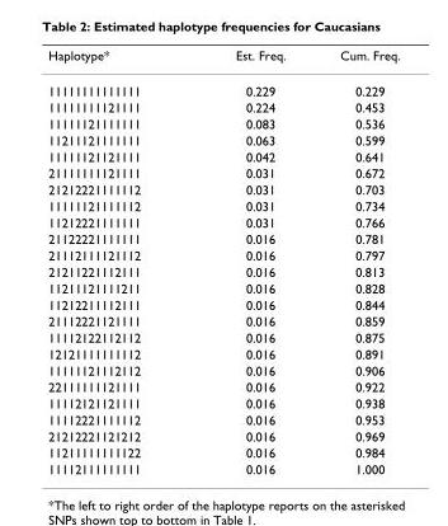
<table><thead><tr><td>Haplotype*</td><td>Est. Freq.</td><td>Cum. Freq.</td></tr></thead><tbody><tr><td>11111111111111</td><td>0.229</td><td>0.229</td></tr><tr><td>11111111121111</td><td>0.224</td><td>0.453</td></tr><tr><td>11111121111111</td><td>0.083</td><td>0.536</td></tr><tr><td>11211121111111</td><td>0.063</td><td>0.599</td></tr><tr><td>11111121121111</td><td>0.042</td><td>0.641</td></tr><tr><td>21111111121111</td><td>0.031</td><td>0.672</td></tr><tr><td>21212221111112</td><td>0.031</td><td>0.703</td></tr><tr><td>11111121111112</td><td>0.031</td><td>0.734</td></tr><tr><td>11212221111111</td><td>0.031</td><td>0.766</td></tr><tr><td>21122221111111</td><td>0.016</td><td>0.781</td></tr><tr><td>21112111121112</td><td>0.016</td><td>0.797</td></tr><tr><td>21211221112111</td><td>0.016</td><td>0.813</td></tr><tr><td>11211121111211</td><td>0.016</td><td>0.828</td></tr><tr><td>11212211112111</td><td>0.016</td><td>0.844</td></tr><tr><td>21112221121111</td><td>0.016</td><td>0.859</td></tr><tr><td>11112122112112</td><td>0.016</td><td>0.875</td></tr><tr><td>12121111111112</td><td>0.016</td><td>0.891</td></tr><tr><td>11111121112112</td><td>0.016</td><td>0.906</td></tr><tr><td>22111111121111</td><td>0.016</td><td>0.922</td></tr><tr><td>11112121121111</td><td>0.016</td><td>0.938</td></tr><tr><td>11112221111112</td><td>0.016</td><td>0.953</td></tr><tr><td>21212221121212</td><td>0.016</td><td>0.969</td></tr><tr><td>11211111111122</td><td>0.016</td><td>0.984</td></tr><tr><td>11112111111111</td><td>0.016</td><td>1.000</td></tr></tbody></table>